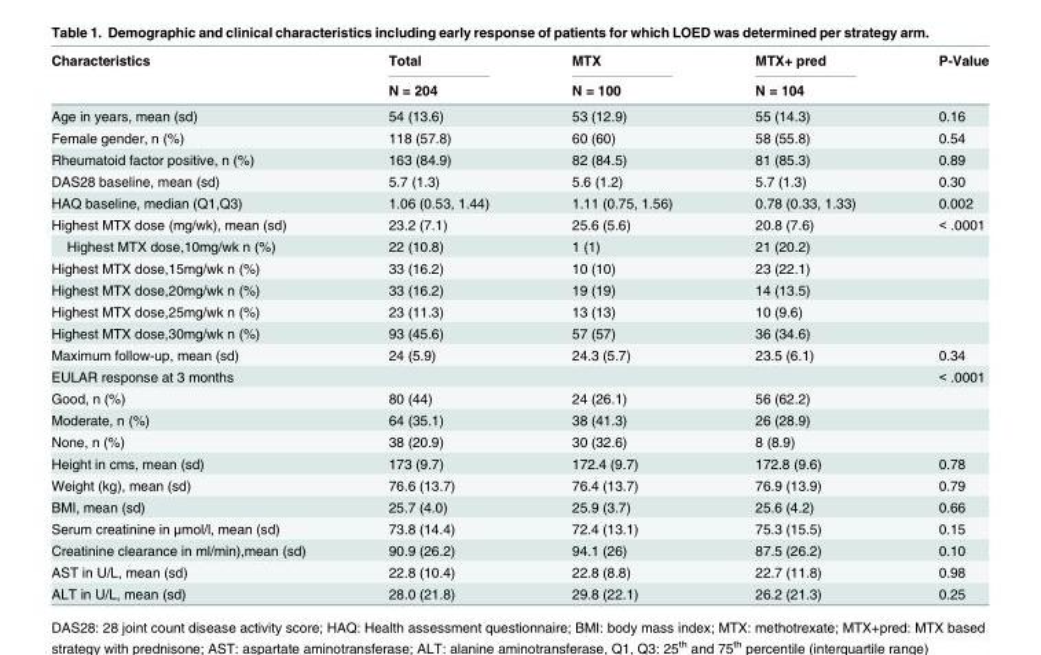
<table><thead><tr><td rowspan="2">Characteristics</td><td rowspan="2">Total N = 204</td><td rowspan="2">MTX N = 100</td><td rowspan="2">MTX+ pred N = 104</td><td rowspan="2">P-Value</td></tr><tr></tr></thead><tbody><tr><td>Age in years, mean (sd)</td><td>54 (13.6)</td><td>53 (12.9)</td><td>55 (14.3)</td><td>0.16</td></tr><tr><td>Female gender, n (%)</td><td>118 (57.8)</td><td>60 (60)</td><td>58 (55.8)</td><td>0.54</td></tr><tr><td>Rheumatoid factor positive, n (%)</td><td>163 (84.9)</td><td>82 (84.5)</td><td>81 (85.3)</td><td>0.89</td></tr><tr><td>DAS28 baseline, mean (sd)</td><td>5.7 (1.3)</td><td>5.6 (1.2)</td><td>5.7 (1.3)</td><td>0.30</td></tr><tr><td>HAQ baseline, median (Q1,Q3)</td><td>1.06 (0.53, 1.44)</td><td>1.11 (0.75, 1.56)</td><td>0.78 (0.33, 1.33)</td><td>0.002</td></tr><tr><td>Highest MTX dose (mg/wk), mean (sd)</td><td>23.2 (7.1)</td><td>25.6 (5.6)</td><td>20.8 (7.6)</td><td>&lt; .0001</td></tr><tr><td>Highest MTX dose,10mg/wk n (%)</td><td>22 (10.8)</td><td>1 (1)</td><td>21 (20.2)</td><td></td></tr><tr><td>Highest MTX dose,15mg/wk n (%)</td><td>33 (16.2)</td><td>10 (10)</td><td>23 (22.1)</td><td></td></tr><tr><td>Highest MTX dose,20mg/wk n (%)</td><td>33 (16.2)</td><td>19 (19)</td><td>14 (13.5)</td><td></td></tr><tr><td>Highest MTX dose,25mg/wk n (%)</td><td>23 (11.3)</td><td>13 (13)</td><td>10 (9.6)</td><td></td></tr><tr><td>Highest MTX dose,30mg/wk n (%)</td><td>93 (45.6)</td><td>57 (57)</td><td>36 (34.6)</td><td></td></tr><tr><td>Maximum follow-up, mean (sd)</td><td>24 (5.9)</td><td>24.3 (5.7)</td><td>23.5 (6.1)</td><td>0.34</td></tr><tr><td>EULAR response at 3 months</td><td></td><td></td><td></td><td>&lt; .0001</td></tr><tr><td>Good, n (%)</td><td>80 (44)</td><td>24 (26.1)</td><td>56 (62.2)</td><td></td></tr><tr><td>Moderate, n (%)</td><td>64 (35.1)</td><td>38 (41.3)</td><td>26 (28.9)</td><td></td></tr><tr><td>None, n (%)</td><td>38 (20.9)</td><td>30 (32.6)</td><td>8 (8.9)</td><td></td></tr><tr><td>Height in cms, mean (sd)</td><td>173 (9.7)</td><td>172.4 (9.7)</td><td>172.8 (9.6)</td><td>0.78</td></tr><tr><td>Weight (kg), mean (sd)</td><td>76.6 (13.7)</td><td>76.4 (13.7)</td><td>76.9 (13.9)</td><td>0.79</td></tr><tr><td>BMI, mean (sd)</td><td>25.7 (4.0)</td><td>25.9 (3.7)</td><td>25.6 (4.2)</td><td>0.66</td></tr><tr><td>Serum creatinine in μmol/l, mean (sd)</td><td>73.8 (14.4)</td><td>72.4 (13.1)</td><td>75.3 (15.5)</td><td>0.15</td></tr><tr><td>Creatinine clearance in ml/min),mean (sd)</td><td>90.9 (26.2)</td><td>94.1 (26)</td><td>87.5 (26.2)</td><td>0.10</td></tr><tr><td>AST in U/L, mean (sd)</td><td>22.8 (10.4)</td><td>22.8 (8.8)</td><td>22.7 (11.8)</td><td>0.98</td></tr><tr><td>ALT in U/L, mean (sd)</td><td>28.0 (21.8)</td><td>29.8 (22.1)</td><td>26.2 (21.3)</td><td>0.25</td></tr></tbody></table>